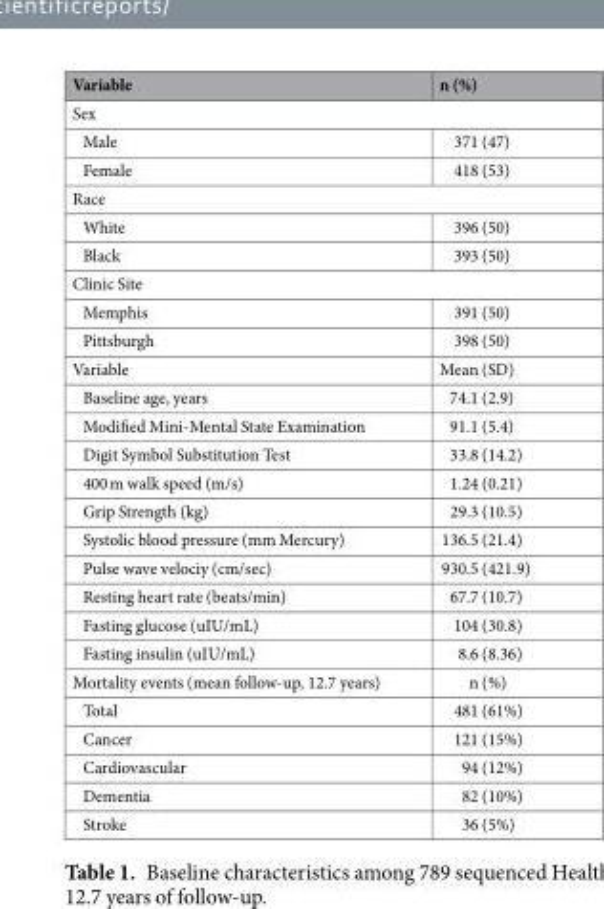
<table><thead><tr><td>Variable</td><td>n (%)</td></tr></thead><tbody><tr><td colspan="2">Sex</td></tr><tr><td>Male</td><td>371 (47)</td></tr><tr><td>Female</td><td>418 (53)</td></tr><tr><td colspan="2">Race</td></tr><tr><td>White</td><td>396 (50)</td></tr><tr><td>Black</td><td>393 (50)</td></tr><tr><td colspan="2">Clinic Site</td></tr><tr><td>Memphis</td><td>391 (50)</td></tr><tr><td>Pittsburgh</td><td>398 (50)</td></tr><tr><td>Variable</td><td>Mean (SD)</td></tr><tr><td>Baseline age, years</td><td>74.1 (2.9)</td></tr><tr><td>Modified Mini-Mental State Examination</td><td>91.1 (5.4)</td></tr><tr><td>Digit Symbol Substitution Test</td><td>33.8 (14.2)</td></tr><tr><td>400 m walk speed (m/s)</td><td>1.24 (0.21)</td></tr><tr><td>Grip Strength (kg)</td><td>29.3 (10.5)</td></tr><tr><td>Systolic blood pressure (mm Mercury)</td><td>136.5 (21.4)</td></tr><tr><td>Pulse wave velociy (cm/sec)</td><td>930.5 (421.9)</td></tr><tr><td>Resting heart rate (beats/min)</td><td>67.7 (10.7)</td></tr><tr><td>Fasting glucose (uIU/mL)</td><td>104 (30.8)</td></tr><tr><td>Fasting insulin (uIU/mL)</td><td>8.6 (8.36)</td></tr><tr><td>Mortality events (mean follow-up, 12.7 years)</td><td>n (%)</td></tr><tr><td>Total</td><td>481 (61%)</td></tr><tr><td>Cancer</td><td>121 (15%)</td></tr><tr><td>Cardiovascular</td><td>94 (12%)</td></tr><tr><td>Dementia</td><td>82 (10%)</td></tr><tr><td>Stroke</td><td>36 (5%)</td></tr></tbody></table>